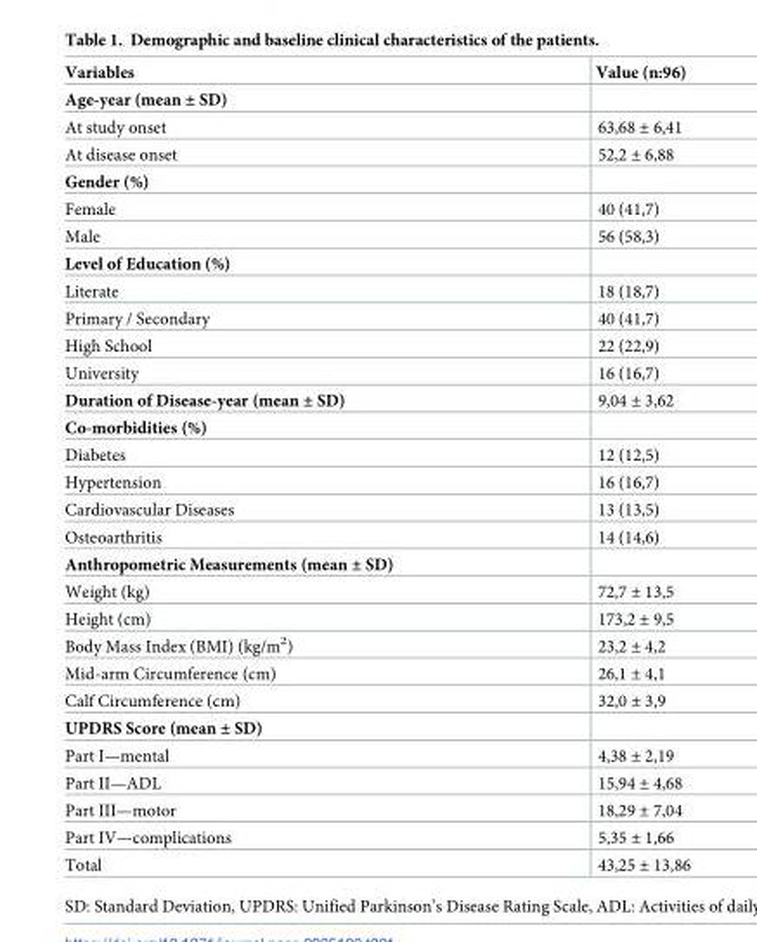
<table><thead><tr><td>Variables</td><td>Value (n:96)</td></tr></thead><tbody><tr><td colspan="2">Age-year (mean ± SD)</td></tr><tr><td>At study onset</td><td>63,68 ± 6,41</td></tr><tr><td>At disease onset</td><td>52,2 ± 6,88</td></tr><tr><td colspan="2">Gender (%)</td></tr><tr><td>Female</td><td>40 (41,7)</td></tr><tr><td>Male</td><td>56 (58,3)</td></tr><tr><td colspan="2">Level of Education (%)</td></tr><tr><td>Literate</td><td>18 (18,7)</td></tr><tr><td>Primary / Secondary</td><td>40 (41,7)</td></tr><tr><td>High School</td><td>22 (22,9)</td></tr><tr><td>University</td><td>16 (16,7)</td></tr><tr><td>Duration of Disease-year (mean ± SD)</td><td>9,04 ± 3,62</td></tr><tr><td colspan="2">Co-morbidities (%)</td></tr><tr><td>Diabetes</td><td>12 (12,5)</td></tr><tr><td>Hypertension</td><td>16 (16,7)</td></tr><tr><td>Cardiovascular Diseases</td><td>13 (13,5)</td></tr><tr><td>Osteoarthritis</td><td>14 (14,6)</td></tr><tr><td colspan="2">Anthropometric Measurements (mean ± SD)</td></tr><tr><td>Weight (kg)</td><td>72,7 ± 13,5</td></tr><tr><td>Height (cm)</td><td>173,2 ± 9,5</td></tr><tr><td>Body Mass Index (BMI) (kg/m<sup>2</sup>)</td><td>23,2 ± 4,2</td></tr><tr><td>Mid-arm Circumference (cm)</td><td>26,1 ± 4,1</td></tr><tr><td>Calf Circumference (cm)</td><td>32,0 ± 3,9</td></tr><tr><td colspan="2">UPDRS Score (mean ± SD)</td></tr><tr><td>Part I—mental</td><td>4,38 ± 2,19</td></tr><tr><td>Part II—ADL</td><td>15,94 ± 4,68</td></tr><tr><td>Part III—motor</td><td>18,29 ± 7,04</td></tr><tr><td>Part IV—complications</td><td>5,35 ± 1,66</td></tr><tr><td>Total</td><td>43,25 ± 13,86</td></tr></tbody></table>